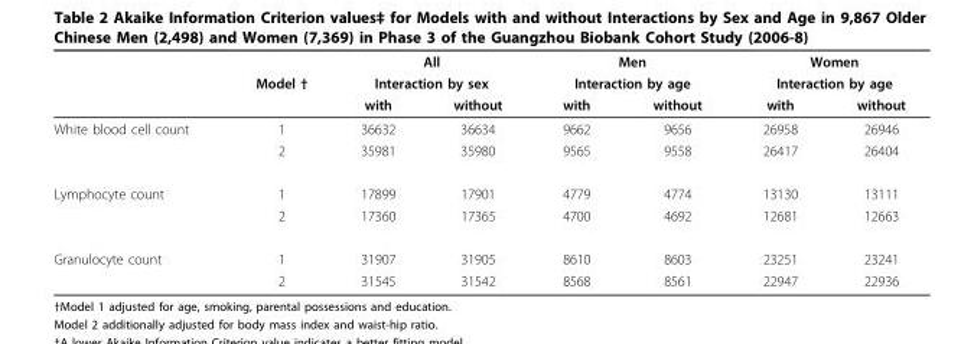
<table><thead><tr><td rowspan="3"></td><td rowspan="3">Model †</td><td rowspan="2" colspan="2">All Interaction by sex</td><td rowspan="2" colspan="2">Men Interaction by age</td><td rowspan="2" colspan="2">Women Interaction by age</td></tr><tr></tr><tr><td>with</td><td>without</td><td>with</td><td>without</td><td>with</td><td>without</td></tr></thead><tbody><tr><td rowspan="2">White blood cell count</td><td>1</td><td>36632</td><td>36634</td><td>9662</td><td>9656</td><td>26958</td><td>26946</td></tr><tr><td>2</td><td>35981</td><td>35980</td><td>9565</td><td>9558</td><td>26417</td><td>26404</td></tr><tr><td rowspan="2">Lymphocyte count</td><td>1</td><td>17899</td><td>17901</td><td>4779</td><td>4774</td><td>13130</td><td>13111</td></tr><tr><td>2</td><td>17360</td><td>17365</td><td>4700</td><td>4692</td><td>12681</td><td>12663</td></tr><tr><td rowspan="2">Granulocyte count</td><td>1</td><td>31907</td><td>31905</td><td>8610</td><td>8603</td><td>23251</td><td>23241</td></tr><tr><td>2</td><td>31545</td><td>31542</td><td>8568</td><td>8561</td><td>22947</td><td>22936</td></tr></tbody></table>